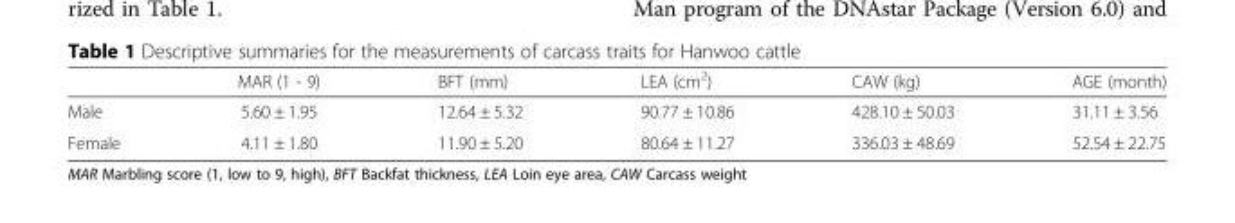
<table><thead><tr><td></td><td>MAR (1 - 9)</td><td>BFT (mm)</td><td>LEA (cm<sup>2</sup>)</td><td>CAW (kg)</td><td>AGE (month)</td></tr></thead><tbody><tr><td>Male</td><td>5.60 ± 1.95</td><td>12.64 ± 5.32</td><td>90.77 ± 10.86</td><td>428.10 ± 50.03</td><td>31.11 ± 3.56</td></tr><tr><td>Female</td><td>4.11 ± 1.80</td><td>11.90 ± 5.20</td><td>80.64 ± 11.27</td><td>336.03 ± 48.69</td><td>52.54 ± 22.75</td></tr></tbody></table>